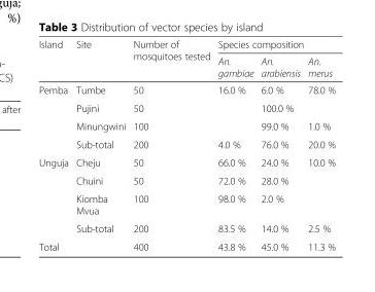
<table><thead><tr><td rowspan="2">Island</td><td rowspan="2">Site</td><td rowspan="2">Number of mosquitoes tested</td><td colspan="3">Species composition</td></tr><tr><td>An. gambiae</td><td>An. arabiensis</td><td>An. merus</td></tr></thead><tbody><tr><td rowspan="4">Pemba</td><td>Tumbe</td><td>50</td><td>16.0 %</td><td>6.0 %</td><td>78.0 %</td></tr><tr><td>Pujini</td><td>50</td><td></td><td>100.0 %</td><td></td></tr><tr><td>Minungwini</td><td>100</td><td></td><td>99.0 %</td><td>1.0 %</td></tr><tr><td>Sub-total</td><td>200</td><td>4.0 %</td><td>76.0 %</td><td>20.0 %</td></tr><tr><td rowspan="4">Unguja</td><td>Cheju</td><td>50</td><td>66.0 %</td><td>24.0 %</td><td>10.0 %</td></tr><tr><td>Chuini</td><td>50</td><td>72.0 %</td><td>28.0 %</td><td></td></tr><tr><td>Kiomba Mvua</td><td>100</td><td>98.0 %</td><td>2.0 %</td><td></td></tr><tr><td>Sub-total</td><td>200</td><td>83.5 %</td><td>14.0 %</td><td>2.5 %</td></tr><tr><td>Total</td><td></td><td>400</td><td>43.8 %</td><td>45.0 %</td><td>11.3 %</td></tr></tbody></table>